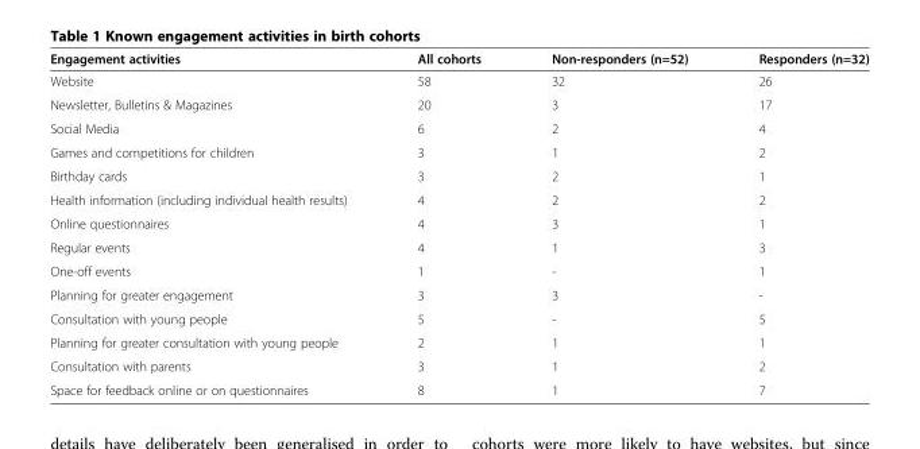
<table><thead><tr><td>Engagement activities</td><td>All cohorts</td><td>Non-responders (n=52)</td><td>Responders (n=32)</td></tr></thead><tbody><tr><td>Website</td><td>58</td><td>32</td><td>26</td></tr><tr><td>Newsletter, Bulletins &amp; Magazines</td><td>20</td><td>3</td><td>17</td></tr><tr><td>Social Media</td><td>6</td><td>2</td><td>4</td></tr><tr><td>Games and competitions for children</td><td>3</td><td>1</td><td>2</td></tr><tr><td>Birthday cards</td><td>3</td><td>2</td><td>1</td></tr><tr><td>Health information (including individual health results)</td><td>4</td><td>2</td><td>2</td></tr><tr><td>Online questionnaires</td><td>4</td><td>3</td><td>1</td></tr><tr><td>Regular events</td><td>4</td><td>1</td><td>3</td></tr><tr><td>One-off events</td><td>1</td><td>-</td><td>1</td></tr><tr><td>Planning for greater engagement</td><td>3</td><td>3</td><td>-</td></tr><tr><td>Consultation with young people</td><td>5</td><td>-</td><td>5</td></tr><tr><td>Planning for greater consultation with young people</td><td>2</td><td>1</td><td>1</td></tr><tr><td>Consultation with parents</td><td>3</td><td>1</td><td>2</td></tr><tr><td>Space for feedback online or on questionnaires</td><td>8</td><td>1</td><td>7</td></tr></tbody></table>